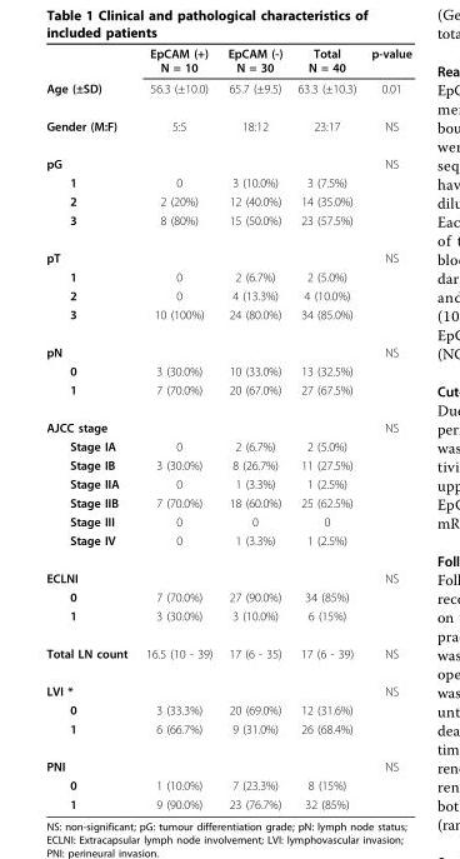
<table><thead><tr><td></td><td>EpCAM (+) N = 10</td><td>EpCAM (-) N = 30</td><td>Total N = 40</td><td>p-value</td></tr></thead><tbody><tr><td>Age (±SD)</td><td>56.3 (±10.0)</td><td>65.7 (±9.5)</td><td>63.3 (±10.3)</td><td>0.01</td></tr><tr><td>Gender (M:F)</td><td>5:5</td><td>18:12</td><td>23:17</td><td>NS</td></tr><tr><td>pG</td><td></td><td></td><td></td><td>NS</td></tr><tr><td>1</td><td>0</td><td>3 (10.0%)</td><td>3 (7.5%)</td><td></td></tr><tr><td>2</td><td>2 (20%)</td><td>12 (40.0%)</td><td>14 (35.0%)</td><td></td></tr><tr><td>3</td><td>8 (80%)</td><td>15 (50.0%)</td><td>23 (57.5%)</td><td></td></tr><tr><td>pT</td><td></td><td></td><td></td><td>NS</td></tr><tr><td>1</td><td>0</td><td>2 (6.7%)</td><td>2 (5.0%)</td><td></td></tr><tr><td>2</td><td>0</td><td>4 (13.3%)</td><td>4 (10.0%)</td><td></td></tr><tr><td>3</td><td>10 (100%)</td><td>24 (80.0%)</td><td>34 (85.0%)</td><td></td></tr><tr><td>pN</td><td></td><td></td><td></td><td>NS</td></tr><tr><td>0</td><td>3 (30.0%)</td><td>10 (33.0%)</td><td>13 (32.5%)</td><td></td></tr><tr><td>1</td><td>7 (70.0%)</td><td>20 (67.0%)</td><td>27 (67.5%)</td><td></td></tr><tr><td>AJCC stage</td><td></td><td></td><td></td><td>NS</td></tr><tr><td>Stage IA</td><td>0</td><td>2 (6.7%)</td><td>2 (5.0%)</td><td></td></tr><tr><td>Stage IB</td><td>3 (30.0%)</td><td>8 (26.7%)</td><td>11 (27.5%)</td><td></td></tr><tr><td>Stage IIA</td><td>0</td><td>1 (3.3%)</td><td>1 (2.5%)</td><td></td></tr><tr><td>Stage IIB</td><td>7 (70.0%)</td><td>18 (60.0%)</td><td>25 (62.5%)</td><td></td></tr><tr><td>Stage III</td><td>0</td><td>0</td><td>0</td><td></td></tr><tr><td>Stage IV</td><td>0</td><td>1 (3.3%)</td><td>1 (2.5%)</td><td></td></tr><tr><td>ECLNI</td><td></td><td></td><td></td><td>NS</td></tr><tr><td>0</td><td>7 (70.0%)</td><td>27 (90.0%)</td><td>34 (85%)</td><td></td></tr><tr><td>1</td><td>3 (30.0%)</td><td>3 (10.0%)</td><td>6 (15%)</td><td></td></tr><tr><td>Total LN count</td><td>16.5 (10 - 39)</td><td>17 (6 - 35)</td><td>17 (6 - 39)</td><td>NS</td></tr><tr><td>LVI *</td><td></td><td></td><td></td><td>NS</td></tr><tr><td>0</td><td>3 (33.3%)</td><td>20 (69.0%)</td><td>12 (31.6%)</td><td></td></tr><tr><td>1</td><td>6 (66.7%)</td><td>9 (31.0%)</td><td>26 (68.4%)</td><td></td></tr><tr><td>PNI</td><td></td><td></td><td></td><td>NS</td></tr><tr><td>0</td><td>1 (10.0%)</td><td>7 (23.3%)</td><td>8 (15%)</td><td></td></tr><tr><td>1</td><td>9 (90.0%)</td><td>23 (76.7%)</td><td>32 (85%)</td><td></td></tr></tbody></table>